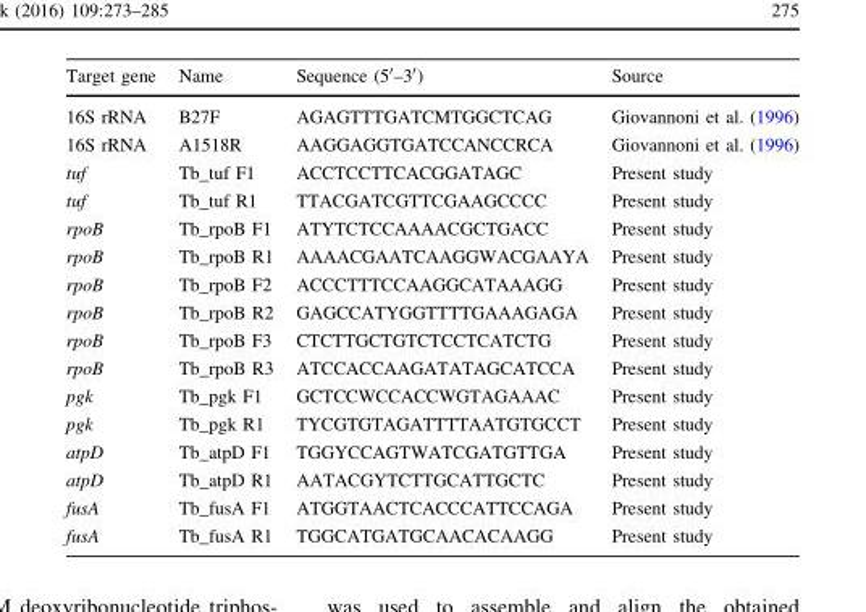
<table><thead><tr><td>Target gene</td><td>Name</td><td>Sequence (5′–3′)</td><td>Source</td></tr></thead><tbody><tr><td>16S rRNA</td><td>B27F</td><td>AGAGTTTGATCMTGGCTCAG</td><td>Giovannoni et al. (1996)</td></tr><tr><td>16S rRNA</td><td>A1518R</td><td>AAGGAGGTGATCCANCCRCA</td><td>Giovannoni et al. (1996)</td></tr><tr><td>tuf</td><td>Tb_tuf F1</td><td>ACCTCCTTCACGGATAGC</td><td>Present study</td></tr><tr><td>tuf</td><td>Tb_tuf R1</td><td>TTACGATCGTTCGAAGCCCC</td><td>Present study</td></tr><tr><td>rpoB</td><td>Tb_rpoB F1</td><td>ATYTCTCCAAAACGCTGACC</td><td>Present study</td></tr><tr><td>rpoB</td><td>Tb_rpoB R1</td><td>AAAACGAATCAAGGWACGAAYA</td><td>Present study</td></tr><tr><td>rpoB</td><td>Tb_rpoB F2</td><td>ACCCTTTCCAAGGCATAAAGG</td><td>Present study</td></tr><tr><td>rpoB</td><td>Tb_rpoB R2</td><td>GAGCCATYGGTTTTGAAAGAGA</td><td>Present study</td></tr><tr><td>rpoB</td><td>Tb_rpoB F3</td><td>CTCTTGCTGTCTCCTCATCTG</td><td>Present study</td></tr><tr><td>rpoB</td><td>Tb_rpoB R3</td><td>ATCCACCAAGATATAGCATCCA</td><td>Present study</td></tr><tr><td>pgk</td><td>Tb_pgk F1</td><td>GCTCCWCCACCWGTAGAAAC</td><td>Present study</td></tr><tr><td>pgk</td><td>Tb_pgk R1</td><td>TYCGTGTAGATTTTAATGTGCCT</td><td>Present study</td></tr><tr><td>atpD</td><td>Tb_atpD F1</td><td>TGGYCCAGTWATCGATGTTGA</td><td>Present study</td></tr><tr><td>atpD</td><td>Tb_atpD R1</td><td>AATACGYTCTTGCATTGCTC</td><td>Present study</td></tr><tr><td>fusA</td><td>Tb_fusA F1</td><td>ATGGTAACTCACCCATTCCAGA</td><td>Present study</td></tr><tr><td>fusA</td><td>Tb_fusA R1</td><td>TGGCATGATGCAACACAAGG</td><td>Present study</td></tr></tbody></table>